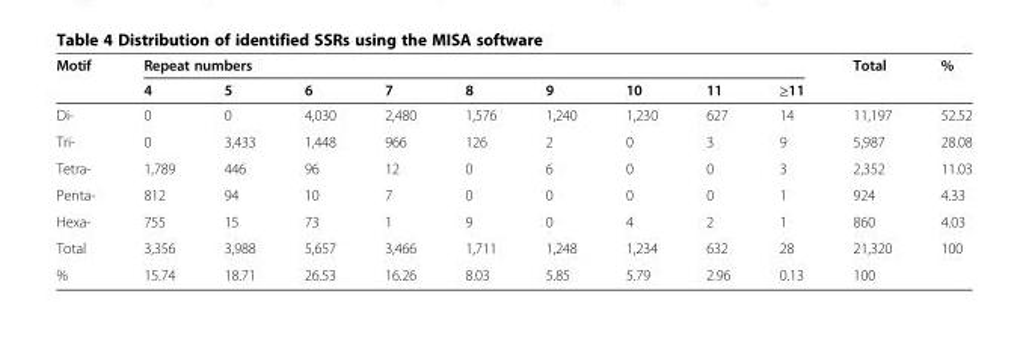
<table><thead><tr><td rowspan="2">Motif</td><td colspan="9">Repeat numbers</td><td rowspan="2">Total</td><td rowspan="2">%</td></tr><tr><td>4</td><td>5</td><td>6</td><td>7</td><td>8</td><td>9</td><td>10</td><td>11</td><td>≥11</td></tr></thead><tbody><tr><td>Di-</td><td>0</td><td>0</td><td>4,030</td><td>2,480</td><td>1,576</td><td>1,240</td><td>1,230</td><td>627</td><td>14</td><td>11,197</td><td>52.52</td></tr><tr><td>Tri-</td><td>0</td><td>3,433</td><td>1,448</td><td>966</td><td>126</td><td>2</td><td>0</td><td>3</td><td>9</td><td>5,987</td><td>28.08</td></tr><tr><td>Tetra-</td><td>1,789</td><td>446</td><td>96</td><td>12</td><td>0</td><td>6</td><td>0</td><td>0</td><td>3</td><td>2,352</td><td>11.03</td></tr><tr><td>Penta-</td><td>812</td><td>94</td><td>10</td><td>7</td><td>0</td><td>0</td><td>0</td><td>0</td><td>1</td><td>924</td><td>4.33</td></tr><tr><td>Hexa-</td><td>755</td><td>15</td><td>73</td><td>1</td><td>9</td><td>0</td><td>4</td><td>2</td><td>1</td><td>860</td><td>4.03</td></tr><tr><td>Total</td><td>3,356</td><td>3,988</td><td>5,657</td><td>3,466</td><td>1,711</td><td>1,248</td><td>1,234</td><td>632</td><td>28</td><td>21,320</td><td>100</td></tr><tr><td>%</td><td>15.74</td><td>18.71</td><td>26.53</td><td>16.26</td><td>8.03</td><td>5.85</td><td>5.79</td><td>2.96</td><td>0.13</td><td>100</td><td></td></tr></tbody></table>